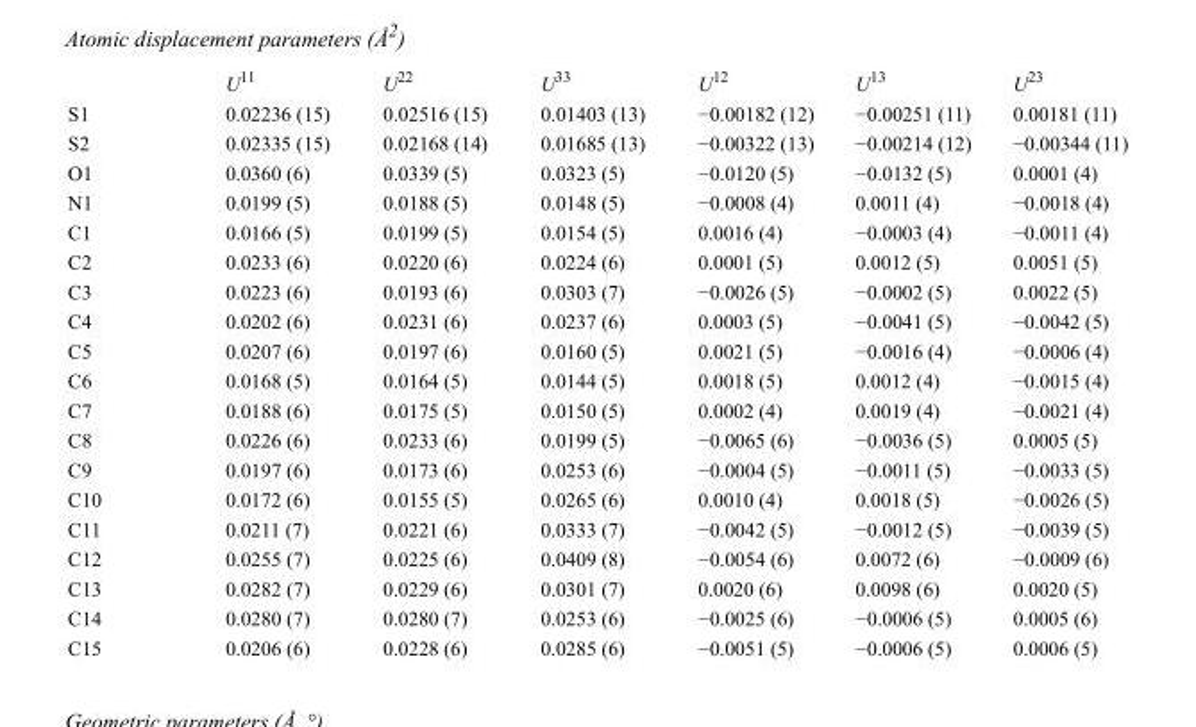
<table><thead><tr><td></td><td>U<sup>11</sup></td><td>U<sup>22</sup></td><td>U<sup>33</sup></td><td>U<sup>12</sup></td><td>U<sup>13</sup></td><td>U<sup>23</sup></td></tr></thead><tbody><tr><td>S1</td><td>0.02236 (15)</td><td>0.02516 (15)</td><td>0.01403 (13)</td><td>−0.00182 (12)</td><td>−0.00251 (11)</td><td>0.00181 (11)</td></tr><tr><td>S2</td><td>0.02335 (15)</td><td>0.02168 (14)</td><td>0.01685 (13)</td><td>−0.00322 (13)</td><td>−0.00214 (12)</td><td>−0.00344 (11)</td></tr><tr><td>O1</td><td>0.0360 (6)</td><td>0.0339 (5)</td><td>0.0323 (5)</td><td>−0.0120 (5)</td><td>−0.0132 (5)</td><td>0.0001 (4)</td></tr><tr><td>N1</td><td>0.0199 (5)</td><td>0.0188 (5)</td><td>0.0148 (5)</td><td>−0.0008 (4)</td><td>0.0011 (4)</td><td>−0.0018 (4)</td></tr><tr><td>C1</td><td>0.0166 (5)</td><td>0.0199 (5)</td><td>0.0154 (5)</td><td>0.0016 (4)</td><td>−0.0003 (4)</td><td>−0.0011 (4)</td></tr><tr><td>C2</td><td>0.0233 (6)</td><td>0.0220 (6)</td><td>0.0224 (6)</td><td>0.0001 (5)</td><td>0.0012 (5)</td><td>0.0051 (5)</td></tr><tr><td>C3</td><td>0.0223 (6)</td><td>0.0193 (6)</td><td>0.0303 (7)</td><td>−0.0026 (5)</td><td>−0.0002 (5)</td><td>0.0022 (5)</td></tr><tr><td>C4</td><td>0.0202 (6)</td><td>0.0231 (6)</td><td>0.0237 (6)</td><td>0.0003 (5)</td><td>−0.0041 (5)</td><td>−0.0042 (5)</td></tr><tr><td>C5</td><td>0.0207 (6)</td><td>0.0197 (6)</td><td>0.0160 (5)</td><td>0.0021 (5)</td><td>−0.0016 (4)</td><td>−0.0006 (4)</td></tr><tr><td>C6</td><td>0.0168 (5)</td><td>0.0164 (5)</td><td>0.0144 (5)</td><td>0.0018 (5)</td><td>0.0012 (4)</td><td>−0.0015 (4)</td></tr><tr><td>C7</td><td>0.0188 (6)</td><td>0.0175 (5)</td><td>0.0150 (5)</td><td>0.0002 (4)</td><td>0.0019 (4)</td><td>−0.0021 (4)</td></tr><tr><td>C8</td><td>0.0226 (6)</td><td>0.0233 (6)</td><td>0.0199 (5)</td><td>−0.0065 (6)</td><td>−0.0036 (5)</td><td>0.0005 (5)</td></tr><tr><td>C9</td><td>0.0197 (6)</td><td>0.0173 (6)</td><td>0.0253 (6)</td><td>−0.0004 (5)</td><td>−0.0011 (5)</td><td>−0.0033 (5)</td></tr><tr><td>C10</td><td>0.0172 (6)</td><td>0.0155 (5)</td><td>0.0265 (6)</td><td>0.0010 (4)</td><td>0.0018 (5)</td><td>−0.0026 (5)</td></tr><tr><td>C11</td><td>0.0211 (7)</td><td>0.0221 (6)</td><td>0.0333 (7)</td><td>−0.0042 (5)</td><td>−0.0012 (5)</td><td>−0.0039 (5)</td></tr><tr><td>C12</td><td>0.0255 (7)</td><td>0.0225 (6)</td><td>0.0409 (8)</td><td>−0.0054 (6)</td><td>0.0072 (6)</td><td>−0.0009 (6)</td></tr><tr><td>C13</td><td>0.0282 (7)</td><td>0.0229 (6)</td><td>0.0301 (7)</td><td>0.0020 (6)</td><td>0.0098 (6)</td><td>0.0020 (5)</td></tr><tr><td>C14</td><td>0.0280 (7)</td><td>0.0280 (7)</td><td>0.0253 (6)</td><td>−0.0025 (6)</td><td>−0.0006 (5)</td><td>0.0005 (6)</td></tr><tr><td>C15</td><td>0.0206 (6)</td><td>0.0228 (6)</td><td>0.0285 (6)</td><td>−0.0051 (5)</td><td>−0.0006 (5)</td><td>0.0006 (5)</td></tr></tbody></table>